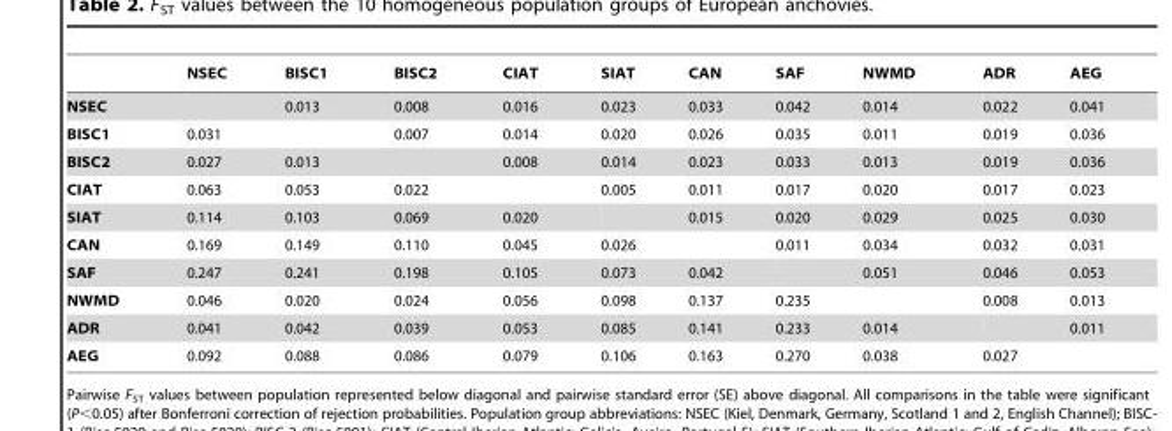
<table><thead><tr><td></td><td>NSEC</td><td>BISC1</td><td>BISC2</td><td>CIAT</td><td>SIAT</td><td>CAN</td><td>SAF</td><td>NWMD</td><td>ADR</td><td>AEG</td></tr></thead><tbody><tr><td>NSEC</td><td></td><td>0.013</td><td>0.008</td><td>0.016</td><td>0.023</td><td>0.033</td><td>0.042</td><td>0.014</td><td>0.022</td><td>0.041</td></tr><tr><td>BISC1</td><td>0.031</td><td></td><td>0.007</td><td>0.014</td><td>0.020</td><td>0.026</td><td>0.035</td><td>0.011</td><td>0.019</td><td>0.036</td></tr><tr><td>BISC2</td><td>0.027</td><td>0.013</td><td></td><td>0.008</td><td>0.014</td><td>0.023</td><td>0.033</td><td>0.013</td><td>0.019</td><td>0.036</td></tr><tr><td>CIAT</td><td>0.063</td><td>0.053</td><td>0.022</td><td></td><td>0.005</td><td>0.011</td><td>0.017</td><td>0.020</td><td>0.017</td><td>0.023</td></tr><tr><td>SIAT</td><td>0.114</td><td>0.103</td><td>0.069</td><td>0.020</td><td></td><td>0.015</td><td>0.020</td><td>0.029</td><td>0.025</td><td>0.030</td></tr><tr><td>CAN</td><td>0.169</td><td>0.149</td><td>0.110</td><td>0.045</td><td>0.026</td><td></td><td>0.011</td><td>0.034</td><td>0.032</td><td>0.031</td></tr><tr><td>SAF</td><td>0.247</td><td>0.241</td><td>0.198</td><td>0.105</td><td>0.073</td><td>0.042</td><td></td><td>0.051</td><td>0.046</td><td>0.053</td></tr><tr><td>NWMD</td><td>0.046</td><td>0.020</td><td>0.024</td><td>0.056</td><td>0.098</td><td>0.137</td><td>0.235</td><td></td><td>0.008</td><td>0.013</td></tr><tr><td>ADR</td><td>0.041</td><td>0.042</td><td>0.039</td><td>0.053</td><td>0.085</td><td>0.141</td><td>0.233</td><td>0.014</td><td></td><td>0.011</td></tr><tr><td>AEG</td><td>0.092</td><td>0.088</td><td>0.086</td><td>0.079</td><td>0.106</td><td>0.163</td><td>0.270</td><td>0.038</td><td>0.027</td><td></td></tr></tbody></table>